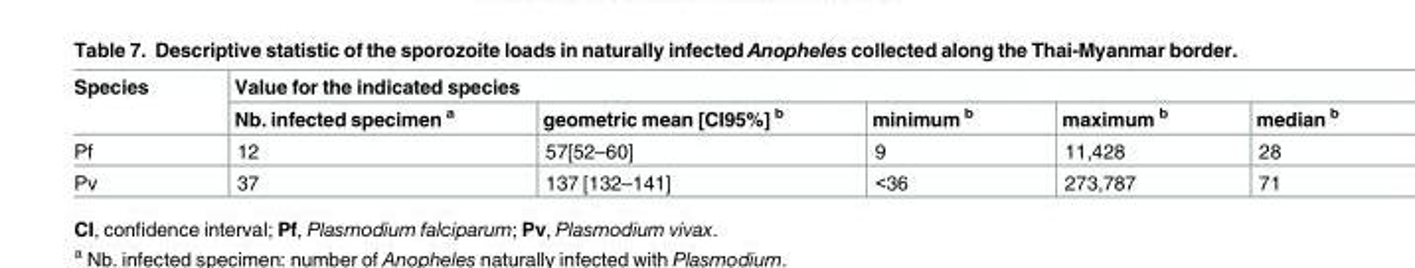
<table><thead><tr><td rowspan="2">Species</td><td colspan="5">Value for the indicated species</td></tr><tr><td>Nb. infected specimen <sup>a</sup></td><td>geometric mean [CI95%] <sup>b</sup></td><td>minimum <sup>b</sup></td><td>maximum <sup>b</sup></td><td>median <sup>b</sup></td></tr></thead><tbody><tr><td>Pf</td><td>12</td><td>57[52–60]</td><td>9</td><td>11,428</td><td>28</td></tr><tr><td>Pv</td><td>37</td><td>137 [132–141]</td><td>&lt;36</td><td>273,787</td><td>71</td></tr></tbody></table>